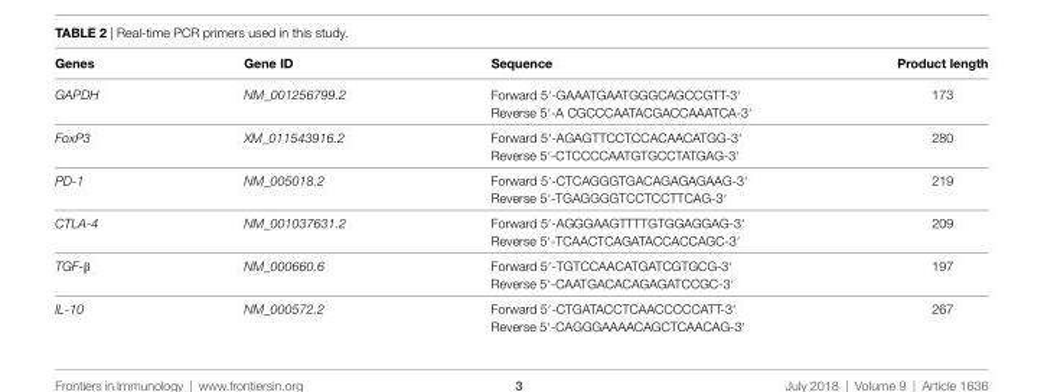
<table><thead><tr><td>genes</td><td>gene iD</td><td>sequence</td><td>Product length</td></tr></thead><tbody><tr><td>GAPDH</td><td>NM_001256799.2</td><td>Forward 5′-GAAATGAATGGGCAGCCGTT-3′ Reverse 5′-A CGCCCAATACGACCAAATCA-3′</td><td>173</td></tr><tr><td>FoxP3</td><td>XM_011543916.2</td><td>Forward 5′-AGAGTTCCTCCACAACATGG-3′ Reverse 5′-CTCCCCAATGTGCCTATGAG-3′</td><td>280</td></tr><tr><td>PD-1</td><td>NM_005018.2</td><td>Forward 5′-CTCAGGGTGACAGAGAGAAG-3′ Reverse 5′-TGAGGGGTCCTCCTTCAG-3′</td><td>219</td></tr><tr><td>CTLA-4</td><td>NM_001037631.2</td><td>Forward 5′-AGGGAAGTTTTGTGGAGGAG-3′ Reverse 5′-TCAACTCAGATACCACCAGC-3′</td><td>209</td></tr><tr><td>TGF-β</td><td>NM_000660.6</td><td>Forward 5′-TGTCCAACATGATCGTGCG-3′ Reverse 5′-CAATGACACAGAGATCCGC-3′</td><td>197</td></tr><tr><td>IL-10</td><td>NM_000572.2</td><td>Forward 5′-CTGATACCTCAACCCCCATT-3′ Reverse 5′-CAGGGAAAACAGCTCAACAG-3′</td><td>267</td></tr></tbody></table>